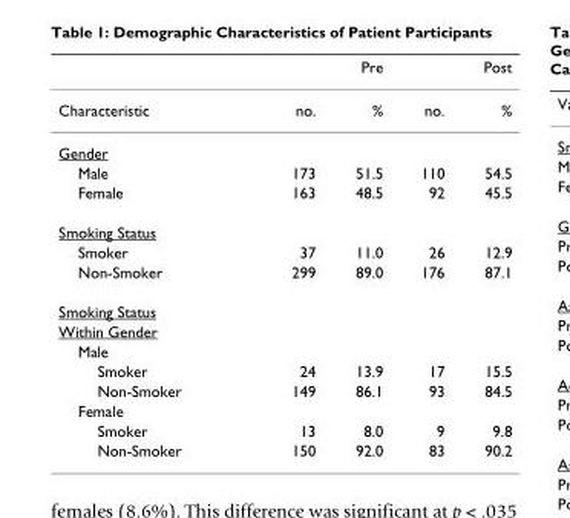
<table><thead><tr><td rowspan="2">Characteristic</td><td colspan="2">Pre</td><td colspan="2">Post</td></tr><tr><td>no.</td><td>%</td><td>no.</td><td>%</td></tr></thead><tbody><tr><td colspan="5">Gender</td></tr><tr><td>Male</td><td>173</td><td>51.5</td><td>110</td><td>54.5</td></tr><tr><td>Female</td><td>163</td><td>48.5</td><td>92</td><td>45.5</td></tr><tr><td colspan="5">Smoking Status</td></tr><tr><td>Smoker</td><td>37</td><td>11.0</td><td>26</td><td>12.9</td></tr><tr><td>Non-Smoker</td><td>299</td><td>89.0</td><td>176</td><td>87.1</td></tr><tr><td colspan="5">Smoking Status</td></tr><tr><td colspan="5">Within Gender</td></tr><tr><td colspan="5">Male</td></tr><tr><td>Smoker</td><td>24</td><td>13.9</td><td>17</td><td>15.5</td></tr><tr><td>Non-Smoker</td><td>149</td><td>86.1</td><td>93</td><td>84.5</td></tr><tr><td colspan="5">Female</td></tr><tr><td>Smoker</td><td>13</td><td>8.0</td><td>9</td><td>9.8</td></tr><tr><td>Non-Smoker</td><td>150</td><td>92.0</td><td>83</td><td>90.2</td></tr></tbody></table>